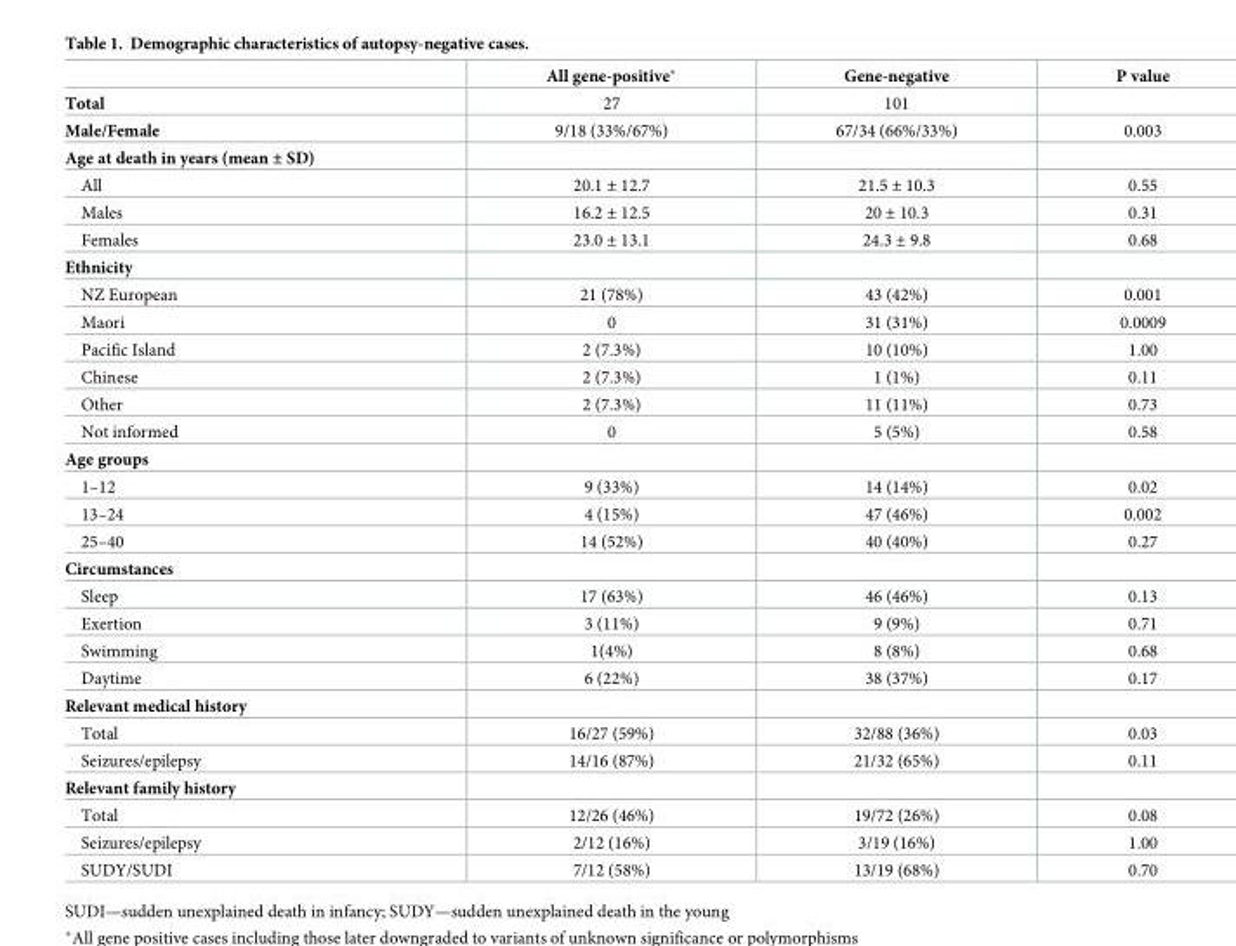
<table><thead><tr><td></td><td>All gene-positive*</td><td>Gene-negative</td><td>P value</td></tr></thead><tbody><tr><td>Total</td><td>27</td><td>101</td><td></td></tr><tr><td>Male/Female</td><td>9/18 (33%/67%)</td><td>67/34 (66%/33%)</td><td>0.003</td></tr><tr><td colspan="4">Age at death in years (mean ± SD)</td></tr><tr><td>All</td><td>20.1 ± 12.7</td><td>21.5 ± 10.3</td><td>0.55</td></tr><tr><td>Males</td><td>16.2 ± 12.5</td><td>20 ± 10.3</td><td>0.31</td></tr><tr><td>Females</td><td>23.0 ± 13.1</td><td>24.3 ± 9.8</td><td>0.68</td></tr><tr><td colspan="4">Ethnicity</td></tr><tr><td>NZ European</td><td>21 (78%)</td><td>43 (42%)</td><td>0.001</td></tr><tr><td>Maori</td><td>0</td><td>31 (31%)</td><td>0.0009</td></tr><tr><td>Pacific Island</td><td>2 (7.3%)</td><td>10 (10%)</td><td>1.00</td></tr><tr><td>Chinese</td><td>2 (7.3%)</td><td>1 (1%)</td><td>0.11</td></tr><tr><td>Other</td><td>2 (7.3%)</td><td>11 (11%)</td><td>0.73</td></tr><tr><td>Not informed</td><td>0</td><td>5 (5%)</td><td>0.58</td></tr><tr><td colspan="4">Age groups</td></tr><tr><td>1–12</td><td>9 (33%)</td><td>14 (14%)</td><td>0.02</td></tr><tr><td>13–24</td><td>4 (15%)</td><td>47 (46%)</td><td>0.002</td></tr><tr><td>25–40</td><td>14 (52%)</td><td>40 (40%)</td><td>0.27</td></tr><tr><td colspan="4">Circumstances</td></tr><tr><td>Sleep</td><td>17 (63%)</td><td>46 (46%)</td><td>0.13</td></tr><tr><td>Exertion</td><td>3 (11%)</td><td>9 (9%)</td><td>0.71</td></tr><tr><td>Swimming</td><td>1(4%)</td><td>8 (8%)</td><td>0.68</td></tr><tr><td>Daytime</td><td>6 (22%)</td><td>38 (37%)</td><td>0.17</td></tr><tr><td colspan="4">Relevant medical history</td></tr><tr><td>Total</td><td>16/27 (59%)</td><td>32/88 (36%)</td><td>0.03</td></tr><tr><td>Seizures/epilepsy</td><td>14/16 (87%)</td><td>21/32 (65%)</td><td>0.11</td></tr><tr><td colspan="4">Relevant family history</td></tr><tr><td>Total</td><td>12/26 (46%)</td><td>19/72 (26%)</td><td>0.08</td></tr><tr><td>Seizures/epilepsy</td><td>2/12 (16%)</td><td>3/19 (16%)</td><td>1.00</td></tr><tr><td>SUDY/SUDI</td><td>7/12 (58%)</td><td>13/19 (68%)</td><td>0.70</td></tr></tbody></table>